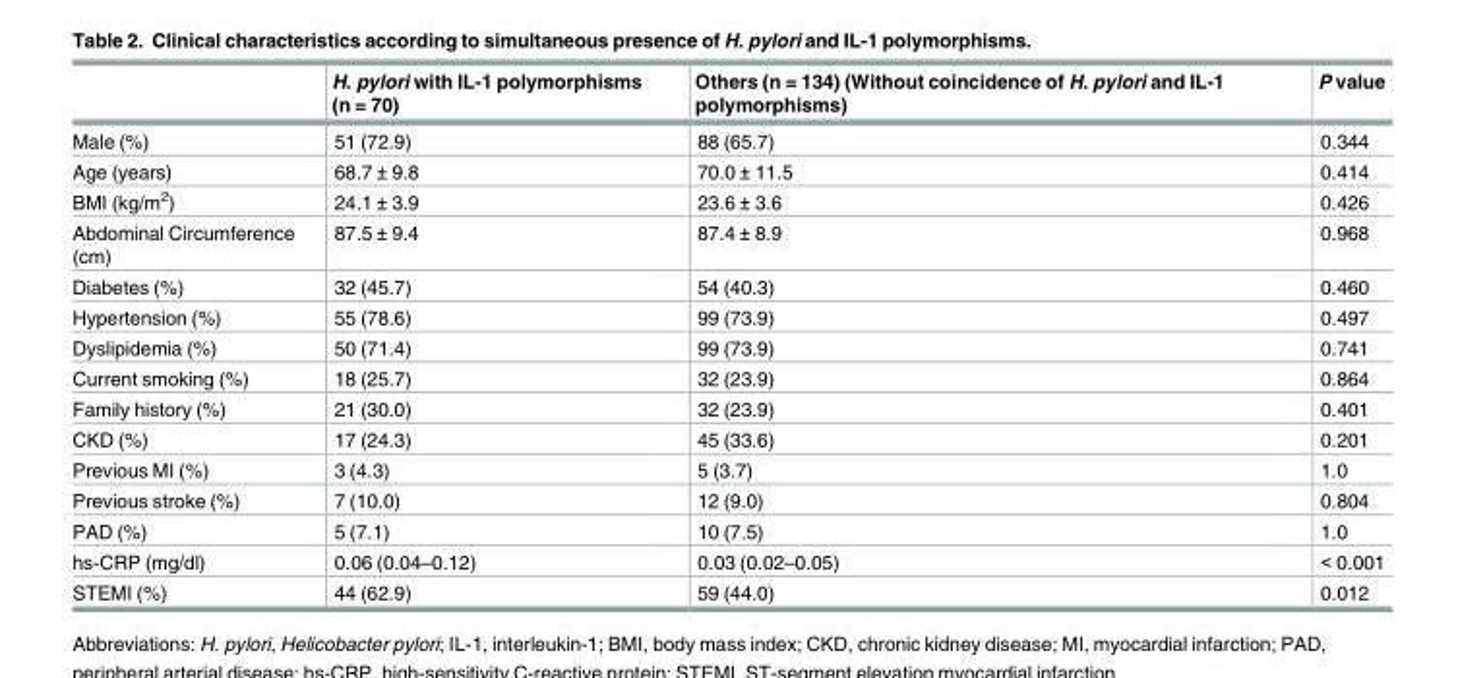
<table><thead><tr><td></td><td>H. pylori with IL-1 polymorphisms (n = 70)</td><td>Others (n = 134) (Without coincidence of H. pylori and IL-1 polymorphisms)</td><td>P value</td></tr></thead><tbody><tr><td>Male (%)</td><td>51 (72.9)</td><td>88 (65.7)</td><td>0.344</td></tr><tr><td>Age (years)</td><td>68.7 ± 9.8</td><td>70.0 ± 11.5</td><td>0.414</td></tr><tr><td>BMI (kg/m<sup>2</sup>)</td><td>24.1 ± 3.9</td><td>23.6 ± 3.6</td><td>0.426</td></tr><tr><td>Abdominal Circumference (cm)</td><td>87.5 ± 9.4</td><td>87.4 ± 8.9</td><td>0.968</td></tr><tr><td>Diabetes (%)</td><td>32 (45.7)</td><td>54 (40.3)</td><td>0.460</td></tr><tr><td>Hypertension (%)</td><td>55 (78.6)</td><td>99 (73.9)</td><td>0.497</td></tr><tr><td>Dyslipidemia (%)</td><td>50 (71.4)</td><td>99 (73.9)</td><td>0.741</td></tr><tr><td>Current smoking (%)</td><td>18 (25.7)</td><td>32 (23.9)</td><td>0.864</td></tr><tr><td>Family history (%)</td><td>21 (30.0)</td><td>32 (23.9)</td><td>0.401</td></tr><tr><td>CKD (%)</td><td>17 (24.3)</td><td>45 (33.6)</td><td>0.201</td></tr><tr><td>Previous MI (%)</td><td>3 (4.3)</td><td>5 (3.7)</td><td>1.0</td></tr><tr><td>Previous stroke (%)</td><td>7 (10.0)</td><td>12 (9.0)</td><td>0.804</td></tr><tr><td>PAD (%)</td><td>5 (7.1)</td><td>10 (7.5)</td><td>1.0</td></tr><tr><td>hs-CRP (mg/dl)</td><td>0.06 (0.04–0.12)</td><td>0.03 (0.02–0.05)</td><td>&lt; 0.001</td></tr><tr><td>STEMI (%)</td><td>44 (62.9)</td><td>59 (44.0)</td><td>0.012</td></tr></tbody></table>